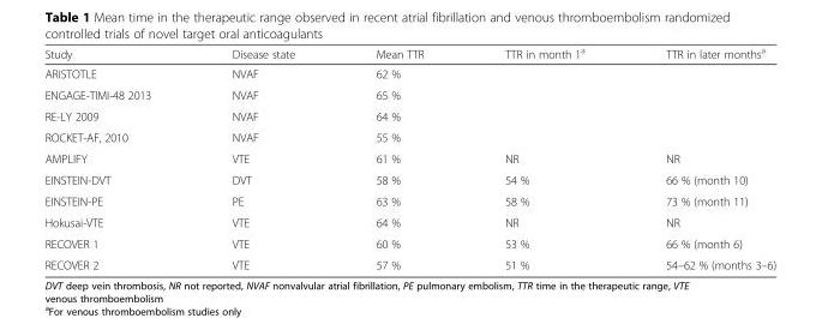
<table><thead><tr><td>Study</td><td>Disease state</td><td>Mean TTR</td><td>TTR in month 1<sup>a</sup></td><td>TTR in later months<sup>a</sup></td></tr></thead><tbody><tr><td>ARISTOTLE</td><td>NVAF</td><td>62 %</td><td></td><td></td></tr><tr><td>ENGAGE-TIMI-48 2013</td><td>NVAF</td><td>65 %</td><td></td><td></td></tr><tr><td>RE-LY 2009</td><td>NVAF</td><td>64 %</td><td></td><td></td></tr><tr><td>ROCKET-AF, 2010</td><td>NVAF</td><td>55 %</td><td></td><td></td></tr><tr><td>AMPLIFY</td><td>VTE</td><td>61 %</td><td>NR</td><td>NR</td></tr><tr><td>EINSTEIN-DVT</td><td>DVT</td><td>58 %</td><td>54 %</td><td>66 % (month 10)</td></tr><tr><td>EINSTEIN-PE</td><td>PE</td><td>63 %</td><td>58 %</td><td>73 % (month 11)</td></tr><tr><td>Hokusai-VTE</td><td>VTE</td><td>64 %</td><td>NR</td><td>NR</td></tr><tr><td>RECOVER 1</td><td>VTE</td><td>60 %</td><td>53 %</td><td>66 % (month 6)</td></tr><tr><td>RECOVER 2</td><td>VTE</td><td>57 %</td><td>51 %</td><td>54–62 % (months 3–6)</td></tr></tbody></table>